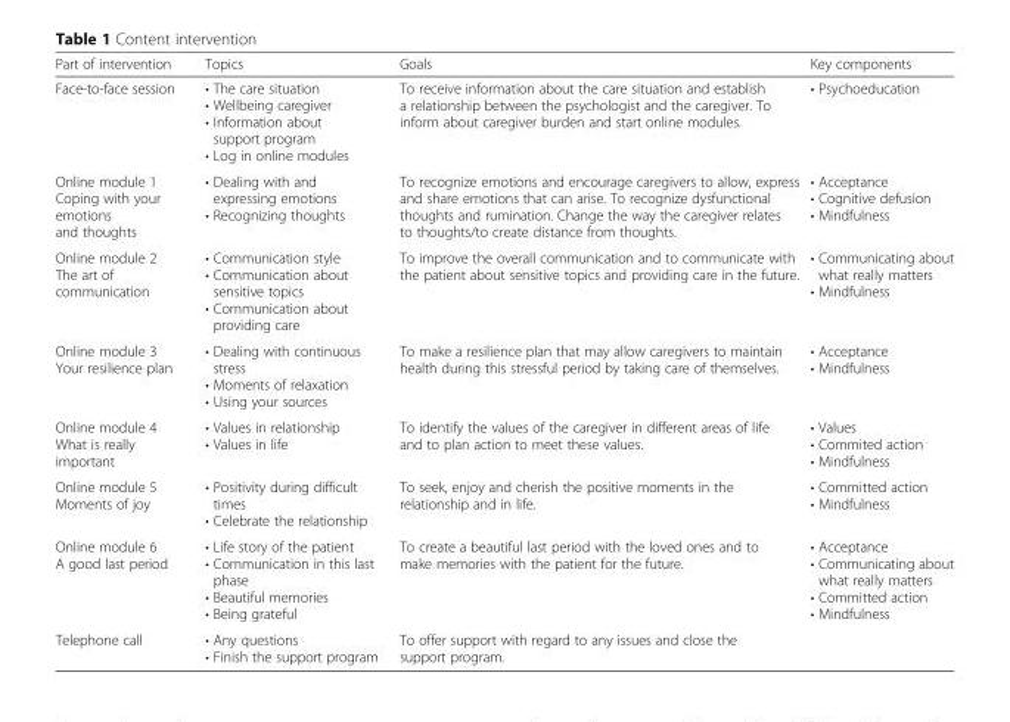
<table><thead><tr><td>Part of intervention</td><td>Topics</td><td>Goals</td><td>Key components</td></tr></thead><tbody><tr><td>Face-to-face session</td><td>• The care situation • Wellbeing caregiver • Information about support program • Log in online modules</td><td>To receive information about the care situation and establish a relationship between the psychologist and the caregiver. To inform about caregiver burden and start online modules.</td><td>• Psychoeducation</td></tr><tr><td>Online module 1 Coping with your emotions and thoughts</td><td>• Dealing with and expressing emotions • Recognizing thoughts</td><td>To recognize emotions and encourage caregivers to allow, express and share emotions that can arise. To recognize dysfunctional thoughts and rumination. Change the way the caregiver relates to thoughts/to create distance from thoughts.</td><td>• Acceptance • Cognitive defusion • Mindfulness</td></tr><tr><td>Online module 2 The art of communication</td><td>• Communication style • Communication about sensitive topics • Communication about providing care</td><td>To improve the overall communication and to communicate with the patient about sensitive topics and providing care in the future.</td><td>• Communicating about what really matters • Mindfulness</td></tr><tr><td>Online module 3 Your resilience plan</td><td>• Dealing with continuous stress • Moments of relaxation • Using your sources</td><td>To make a resilience plan that may allow caregivers to maintain health during this stressful period by taking care of themselves.</td><td>• Acceptance • Mindfulness</td></tr><tr><td>Online module 4 What is really important</td><td>• Values in relationship • Values in life</td><td>To identify the values of the caregiver in different areas of life and to plan action to meet these values.</td><td>• Values • Commited action • Mindfulness</td></tr><tr><td>Online module 5 Moments of joy</td><td>• Positivity during difficult times • Celebrate the relationship</td><td>To seek, enjoy and cherish the positive moments in the relationship and in life.</td><td>• Committed action • Mindfulness</td></tr><tr><td>Online module 6 A good last period</td><td>• Life story of the patient • Communication in this last phase • Beautiful memories • Being grateful</td><td>To create a beautiful last period with the loved ones and to make memories with the patient for the future.</td><td>• Acceptance • Communicating about what really matters • Committed action • Mindfulness</td></tr><tr><td>Telephone call</td><td>• Any questions • Finish the support program</td><td>To offer support with regard to any issues and close the support program.</td><td></td></tr></tbody></table>